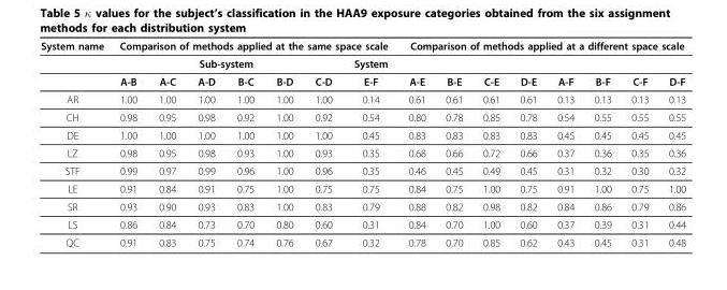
<table><thead><tr><td rowspan="3">System name</td><td colspan="7">Comparison of methods applied at the same space scale</td><td colspan="8">Comparison of methods applied at a different space scale</td></tr><tr><td colspan="6">Sub-system</td><td rowspan="2">System E-F</td><td rowspan="2">A-E</td><td rowspan="2">B-E</td><td rowspan="2">C-E</td><td rowspan="2">D-E</td><td rowspan="2">A-F</td><td rowspan="2">B-F</td><td rowspan="2">C-F</td><td rowspan="2">D-F</td></tr><tr><td>A-B</td><td>A-C</td><td>A-D</td><td>B-C</td><td>B-D</td><td>C-D</td></tr></thead><tbody><tr><td>AR</td><td>1.00</td><td>1.00</td><td>1.00</td><td>1.00</td><td>1.00</td><td>1.00</td><td>0.14</td><td>0.61</td><td>0.61</td><td>0.61</td><td>0.61</td><td>0.13</td><td>0.13</td><td>0.13</td><td>0.13</td></tr><tr><td>CH</td><td>0.98</td><td>0.95</td><td>0.98</td><td>0.92</td><td>1.00</td><td>0.92</td><td>0.54</td><td>0.80</td><td>0.78</td><td>0.85</td><td>0.78</td><td>0.54</td><td>0.55</td><td>0.55</td><td>0.55</td></tr><tr><td>DE</td><td>1.00</td><td>1.00</td><td>1.00</td><td>1.00</td><td>1.00</td><td>1.00</td><td>0.45</td><td>0.83</td><td>0.83</td><td>0.83</td><td>0.83</td><td>0.45</td><td>0.45</td><td>0.45</td><td>0.45</td></tr><tr><td>LZ</td><td>0.98</td><td>0.95</td><td>0.98</td><td>0.93</td><td>1.00</td><td>0.93</td><td>0.35</td><td>0.68</td><td>0.66</td><td>0.72</td><td>0.66</td><td>0.37</td><td>0.36</td><td>0.35</td><td>0.36</td></tr><tr><td>STF</td><td>0.99</td><td>0.97</td><td>0.99</td><td>0.96</td><td>1.00</td><td>0.96</td><td>0.35</td><td>0.46</td><td>0.45</td><td>0.49</td><td>0.45</td><td>0.31</td><td>0.32</td><td>0.30</td><td>0.32</td></tr><tr><td>LE</td><td>0.91</td><td>0.84</td><td>0.91</td><td>0.75</td><td>1.00</td><td>0.75</td><td>0.75</td><td>0.84</td><td>0.75</td><td>1.00</td><td>0.75</td><td>0.91</td><td>1.00</td><td>0.75</td><td>1.00</td></tr><tr><td>SR</td><td>0.93</td><td>0.90</td><td>0.93</td><td>0.83</td><td>1.00</td><td>0.83</td><td>0.79</td><td>0.88</td><td>0.82</td><td>0.98</td><td>0.82</td><td>0.84</td><td>0.86</td><td>0.79</td><td>0.86</td></tr><tr><td>LS</td><td>0.86</td><td>0.84</td><td>0.73</td><td>0.70</td><td>0.80</td><td>0.60</td><td>0.31</td><td>0.84</td><td>0.70</td><td>1.00</td><td>0.60</td><td>0.37</td><td>0.39</td><td>0.31</td><td>0.44</td></tr><tr><td>QC</td><td>0.91</td><td>0.83</td><td>0.75</td><td>0.74</td><td>0.76</td><td>0.67</td><td>0.32</td><td>0.78</td><td>0.70</td><td>0.85</td><td>0.62</td><td>0.43</td><td>0.45</td><td>0.31</td><td>0.48</td></tr></tbody></table>